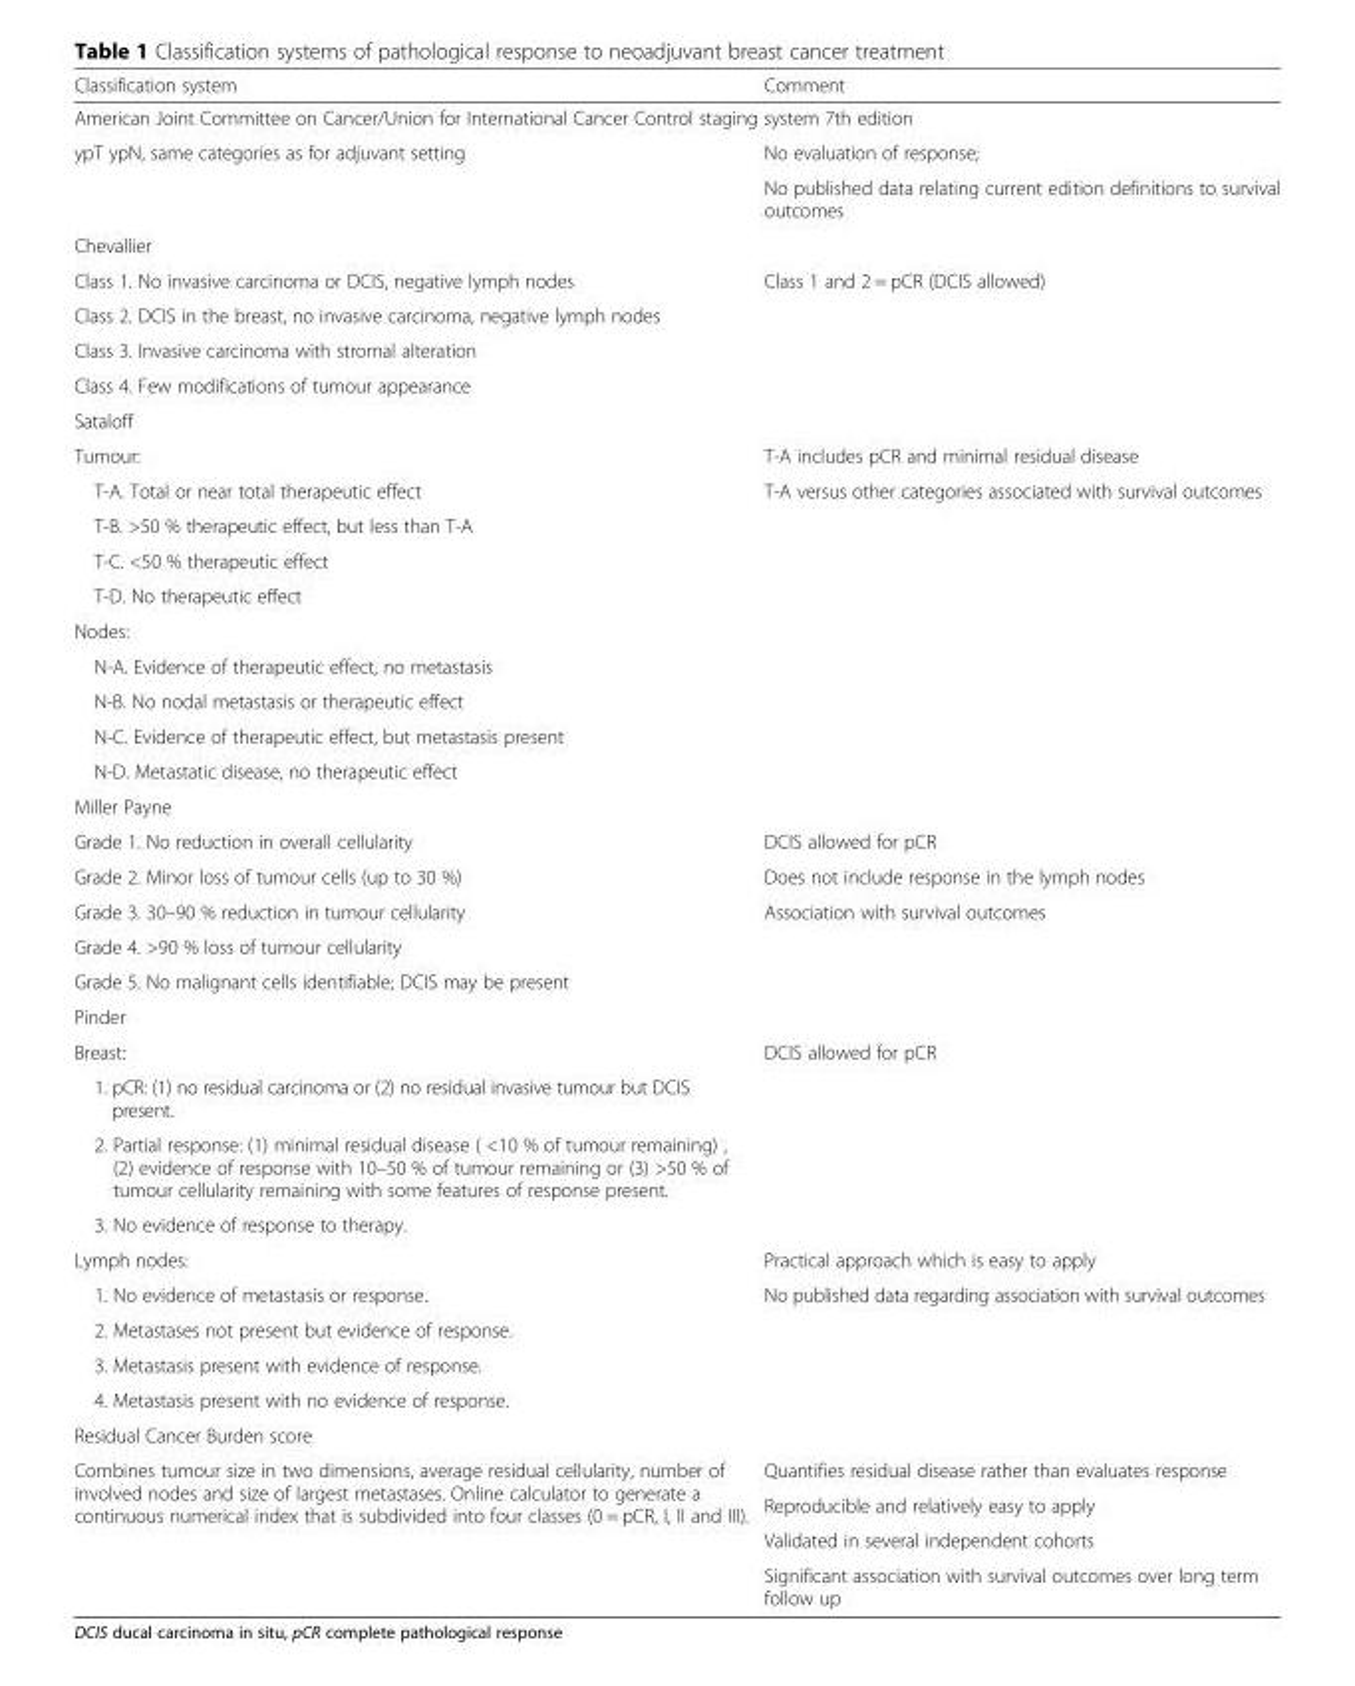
<table><thead><tr><td>Classification system</td><td>Comment</td></tr></thead><tbody><tr><td colspan="2">American Joint Committee on Cancer/Union for International Cancer Control staging system 7th edition</td></tr><tr><td rowspan="2">ypT ypN, same categories as for adjuvant setting</td><td>No evaluation of response;</td></tr><tr><td>No published data relating current edition definitions to survival outcomes</td></tr><tr><td colspan="2">Chevallier</td></tr><tr><td>Class 1. No invasive carcinoma or DCIS, negative lymph nodes</td><td rowspan="4">Class 1 and 2 = pCR (DCIS allowed)</td></tr><tr><td>Class 2. DCIS in the breast, no invasive carcinoma, negative lymph nodes</td></tr><tr><td>Class 3. Invasive carcinoma with stromal alteration</td></tr><tr><td>Class 4. Few modifications of tumour appearance</td></tr><tr><td colspan="2">Sataloff</td></tr><tr><td>Tumour:</td><td>T-A includes pCR and minimal residual disease</td></tr><tr><td>T-A. Total or near total therapeutic effect</td><td rowspan="9">T-A versus other categories associated with survival outcomes</td></tr><tr><td>T-B. &gt;50 % therapeutic effect, but less than T-A</td></tr><tr><td>T-C. &lt;50 % therapeutic effect</td></tr><tr><td>T-D. No therapeutic effect</td></tr><tr><td>Nodes:</td></tr><tr><td>N-A. Evidence of therapeutic effect, no metastasis</td></tr><tr><td>N-B. No nodal metastasis or therapeutic effect</td></tr><tr><td>N-C. Evidence of therapeutic effect, but metastasis present</td></tr><tr><td>N-D. Metastatic disease, no therapeutic effect</td></tr><tr><td colspan="2">Miller Payne</td></tr><tr><td>Grade 1. No reduction in overall cellularity</td><td>DCIS allowed for pCR</td></tr><tr><td>Grade 2. Minor loss of tumour cells (up to 30 %)</td><td>Does not include response in the lymph nodes</td></tr><tr><td>Grade 3. 30–90 % reduction in tumour cellularity</td><td>Association with survival outcomes</td></tr><tr><td>Grade 4. &gt;90 % loss of tumour cellularity</td><td rowspan="2"></td></tr><tr><td>Grade 5. No malignant cells identifiable; DCIS may be present</td></tr><tr><td colspan="2">Pinder</td></tr><tr><td>Breast:</td><td>DCIS allowed for pCR</td></tr><tr><td>1. pCR: (1) no residual carcinoma or (2) no residual invasive tumour but DCIS present.</td><td rowspan="3"></td></tr><tr><td>2. Partial response: (1) minimal residual disease ( &lt;10 % of tumour remaining) , (2) evidence of response with 10–50 % of tumour remaining or (3) &gt;50 % of tumour cellularity remaining with some features of response present.</td></tr><tr><td>3. No evidence of response to therapy.</td></tr><tr><td>Lymph nodes:</td><td>Practical approach which is easy to apply</td></tr><tr><td>1. No evidence of metastasis or response.</td><td rowspan="4">No published data regarding association with survival outcomes</td></tr><tr><td>2. Metastases not present but evidence of response.</td></tr><tr><td>3. Metastasis present with evidence of response.</td></tr><tr><td>4. Metastasis present with no evidence of response.</td></tr><tr><td colspan="2">Residual Cancer Burden score</td></tr><tr><td rowspan="4">Combines tumour size in two dimensions, average residual cellularity, number of involved nodes and size of largest metastases. Online calculator to generate a continuous numerical index that is subdivided into four classes (0 = pCR, I, II and III).</td><td>Quantifies residual disease rather than evaluates response</td></tr><tr><td>Reproducible and relatively easy to apply</td></tr><tr><td>Validated in several independent cohorts</td></tr><tr><td>Significant association with survival outcomes over long term follow up</td></tr></tbody></table>